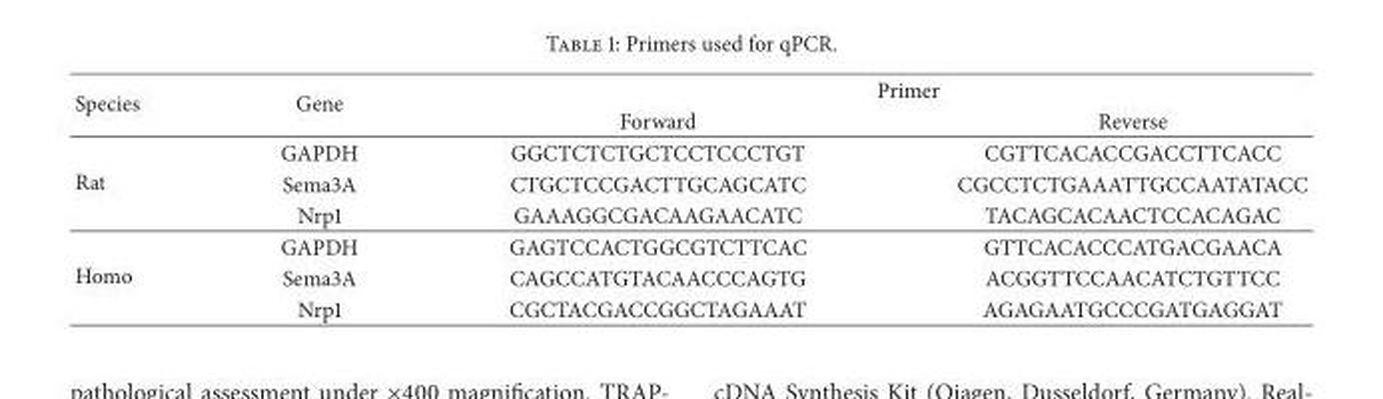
<table><thead><tr><td rowspan="2">Species</td><td rowspan="2">Gene</td><td colspan="2">Primer</td></tr><tr><td>Forward</td><td>Reverse</td></tr></thead><tbody><tr><td rowspan="3">Rat</td><td>GAPDH</td><td>GGCTCTCTGCTCCTCCCTGT</td><td>CGTTCACACCGACCTTCACC</td></tr><tr><td>Sema3A</td><td>CTGCTCCGACTTGCAGCATC</td><td>CGCCTCTGAAATTGCCAATATACC</td></tr><tr><td>Nrp1</td><td>GAAAGGCGACAAGAACATC</td><td>TACAGCACAACTCCACAGAC</td></tr><tr><td rowspan="3">Homo</td><td>GAPDH</td><td>GAGTCCACTGGCGTCTTCAC</td><td>GTTCACACCCATGACGAACA</td></tr><tr><td>Sema3A</td><td>CAGCCATGTACAACCCAGTG</td><td>ACGGTTCCAACATCTGTTCC</td></tr><tr><td>Nrp1</td><td>CGCTACGACCGGCTAGAAAT</td><td>AGAGAATGCCCGATGAGGAT</td></tr></tbody></table>